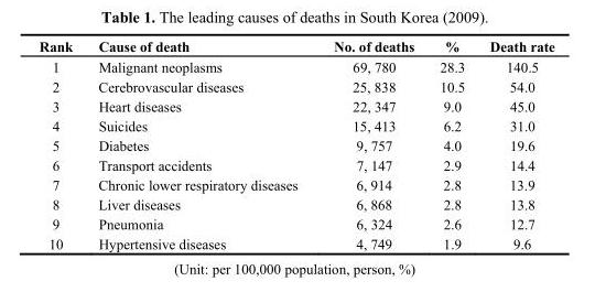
<table><thead><tr><td>Rank</td><td>Cause of death</td><td>No. of deaths</td><td>%</td><td>Death rate</td></tr></thead><tbody><tr><td>1</td><td>Malignant neoplasms</td><td>69, 780</td><td>28.3</td><td>140.5</td></tr><tr><td>2</td><td>Cerebrovascular diseases</td><td>25, 838</td><td>10.5</td><td>54.0</td></tr><tr><td>3</td><td>Heart diseases</td><td>22, 347</td><td>9.0</td><td>45.0</td></tr><tr><td>4</td><td>Suicides</td><td>15, 413</td><td>6.2</td><td>31.0</td></tr><tr><td>5</td><td>Diabetes</td><td>9, 757</td><td>4.0</td><td>19.6</td></tr><tr><td>6</td><td>Transport accidents</td><td>7, 147</td><td>2.9</td><td>14.4</td></tr><tr><td>7</td><td>Chronic lower respiratory diseases</td><td>6, 914</td><td>2.8</td><td>13.9</td></tr><tr><td>8</td><td>Liver diseases</td><td>6, 868</td><td>2.8</td><td>13.8</td></tr><tr><td>9</td><td>Pneumonia</td><td>6, 324</td><td>2.6</td><td>12.7</td></tr><tr><td>10</td><td>Hypertensive diseases</td><td>4, 749</td><td>1.9</td><td>9.6</td></tr></tbody></table>